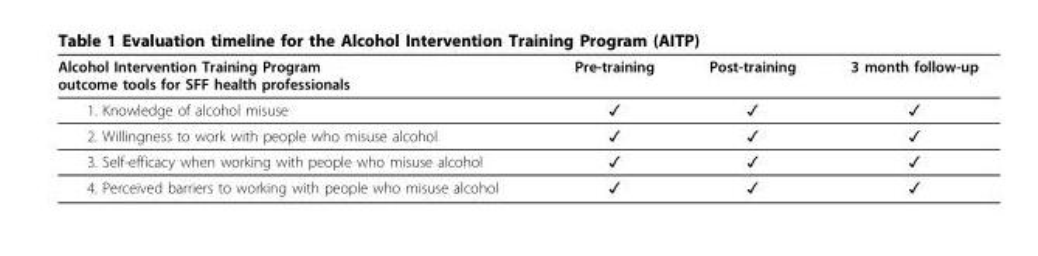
<table><thead><tr><td>Alcohol Intervention Training Program outcome tools for SFF health professionals</td><td>Pre-training</td><td>Post-training</td><td>3 month follow-up</td></tr></thead><tbody><tr><td>1. Knowledge of alcohol misuse</td><td>✓</td><td>✓</td><td>✓</td></tr><tr><td>2. Willingness to work with people who misuse alcohol</td><td>✓</td><td>✓</td><td>✓</td></tr><tr><td>3. Self-efficacy when working with people who misuse alcohol</td><td>✓</td><td>✓</td><td>✓</td></tr><tr><td>4. Perceived barriers to working with people who misuse alcohol</td><td>✓</td><td>✓</td><td>✓</td></tr></tbody></table>